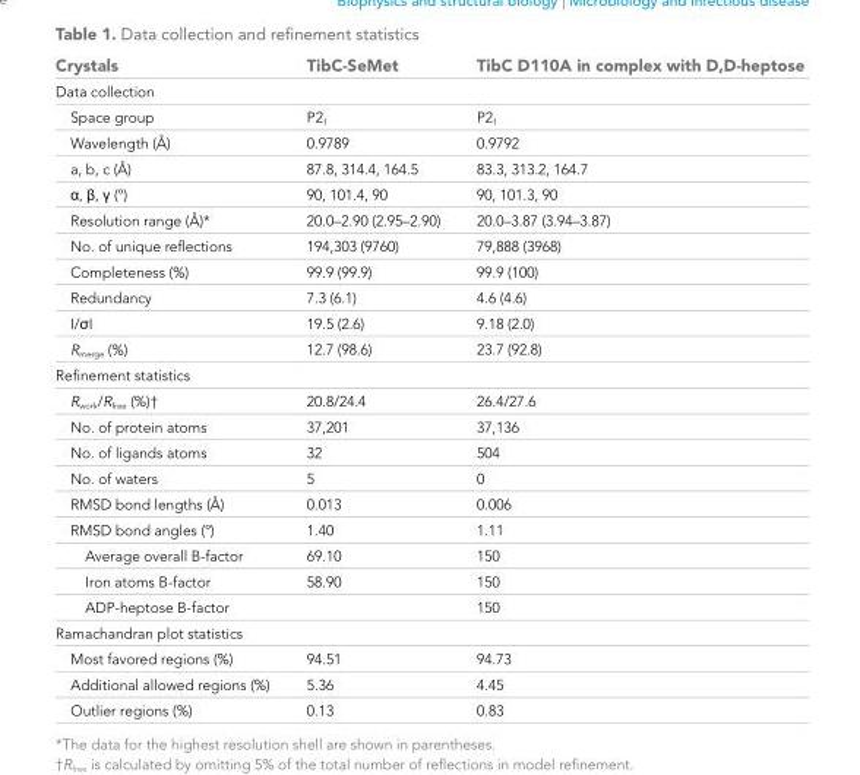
<table><thead><tr><td>Crystals</td><td>TibC-SeMet</td><td>TibC D110A in complex with D,D-heptose</td></tr></thead><tbody><tr><td colspan="3">Data collection</td></tr><tr><td>Space group</td><td>P2<sub>1</sub></td><td>P2<sub>1</sub></td></tr><tr><td>Wavelength (Å)</td><td>0.9789</td><td>0.9792</td></tr><tr><td>a, b, c (Å)</td><td>87.8, 314.4, 164.5</td><td>83.3, 313.2, 164.7</td></tr><tr><td>α, β, γ (º)</td><td>90, 101.4, 90</td><td>90, 101.3, 90</td></tr><tr><td>Resolution range (Å)*</td><td>20.0–2.90 (2.95–2.90)</td><td>20.0–3.87 (3.94–3.87)</td></tr><tr><td>No. of unique reflections</td><td>194,303 (9760)</td><td>79,888 (3968)</td></tr><tr><td>Completeness (%)</td><td>99.9 (99.9)</td><td>99.9 (100)</td></tr><tr><td>Redundancy</td><td>7.3 (6.1)</td><td>4.6 (4.6)</td></tr><tr><td>I/σI</td><td>19.5 (2.6)</td><td>9.18 (2.0)</td></tr><tr><td>R<sub>merge</sub> (%)</td><td>12.7 (98.6)</td><td>23.7 (92.8)</td></tr><tr><td colspan="3">Refinement statistics</td></tr><tr><td>R<sub>work</sub>/R<sub>free</sub> (%)†</td><td>20.8/24.4</td><td>26.4/27.6</td></tr><tr><td>No. of protein atoms</td><td>37,201</td><td>37,136</td></tr><tr><td>No. of ligands atoms</td><td>32</td><td>504</td></tr><tr><td>No. of waters</td><td>5</td><td>0</td></tr><tr><td>RMSD bond lengths (Å)</td><td>0.013</td><td>0.006</td></tr><tr><td>RMSD bond angles (º)</td><td>1.40</td><td>1.11</td></tr><tr><td>Average overall B-factor</td><td>69.10</td><td>150</td></tr><tr><td>Iron atoms B-factor</td><td>58.90</td><td>150</td></tr><tr><td>ADP-heptose B-factor</td><td></td><td>150</td></tr><tr><td colspan="3">Ramachandran plot statistics</td></tr><tr><td>Most favored regions (%)</td><td>94.51</td><td>94.73</td></tr><tr><td>Additional allowed regions (%)</td><td>5.36</td><td>4.45</td></tr><tr><td>Outlier regions (%)</td><td>0.13</td><td>0.83</td></tr></tbody></table>